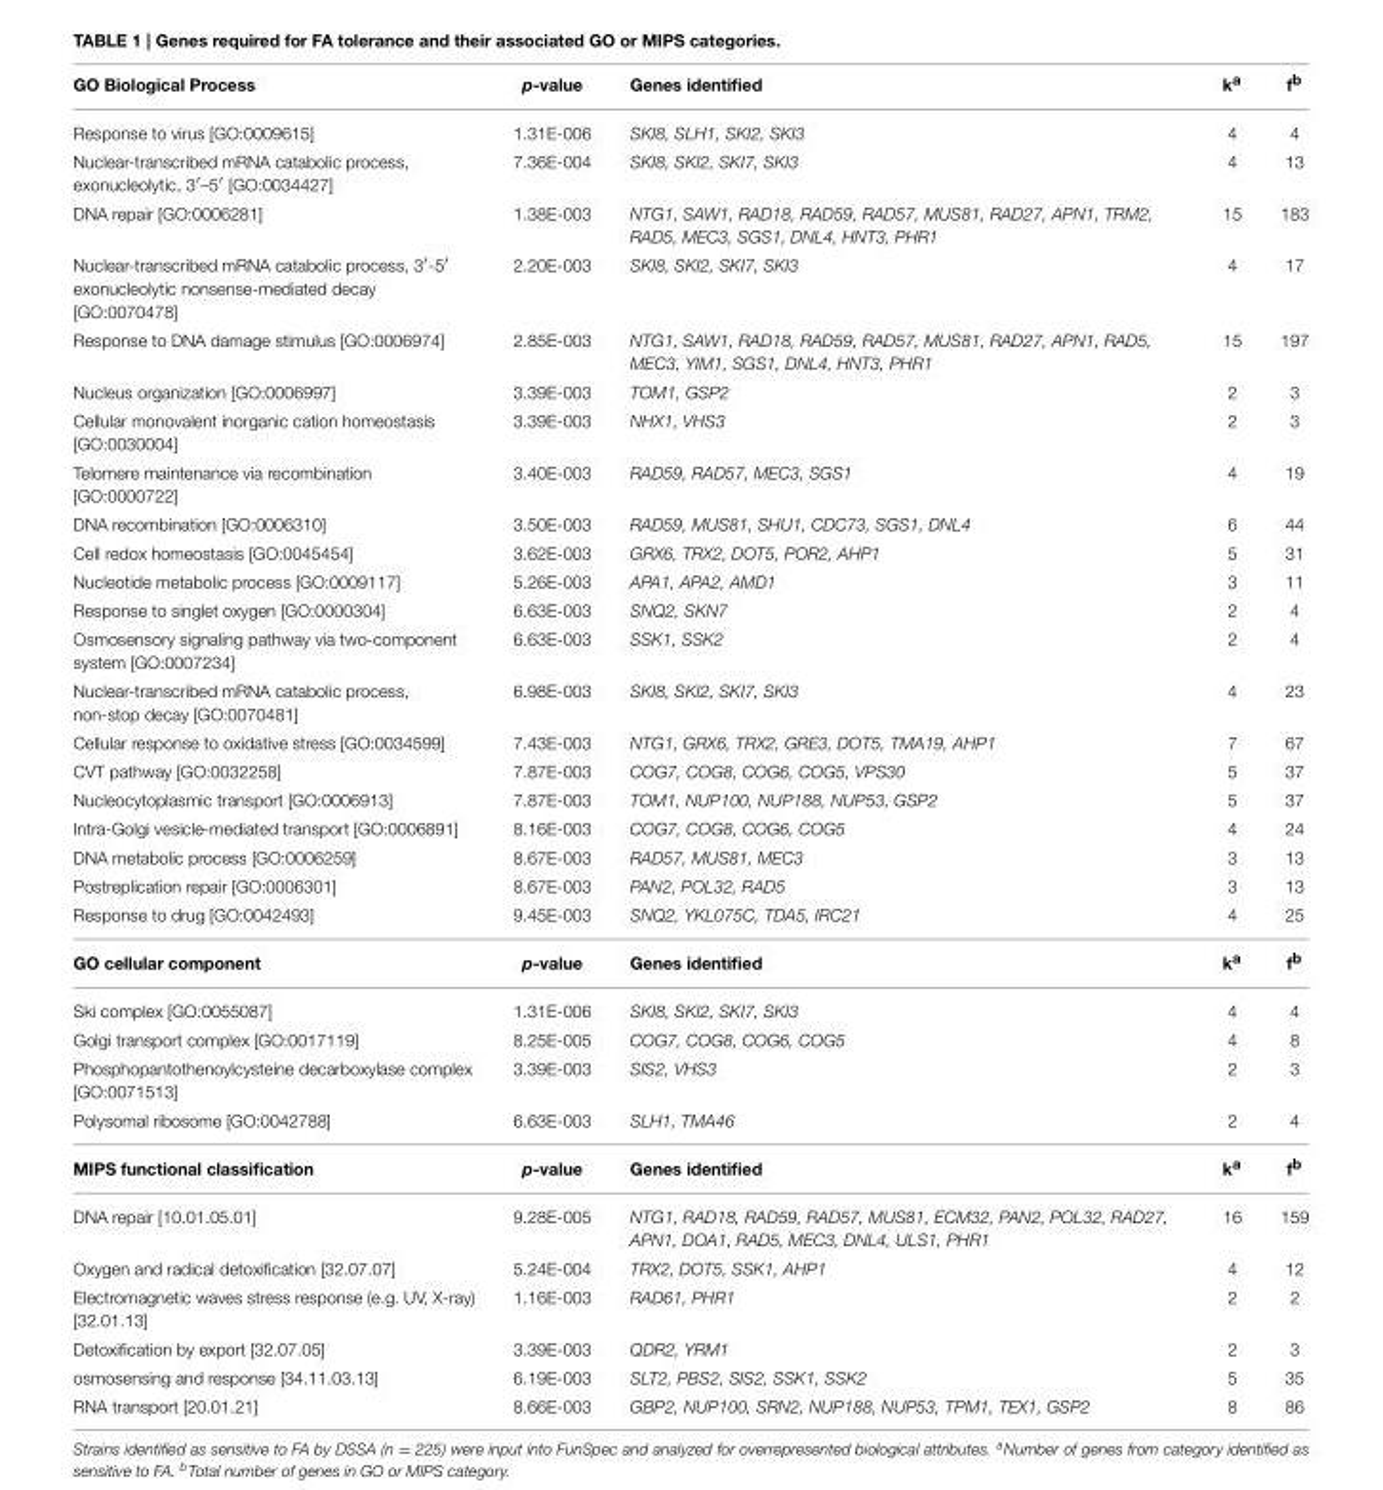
<table><thead><tr><td>GO Biological Process</td><td>p-value</td><td>Genes identified</td><td>k<sup>a</sup></td><td>f<sup>b</sup></td></tr></thead><tbody><tr><td>Response to virus [GO:0009615]</td><td>1.31E-006</td><td>SKI8, SLH1, SKI2, SKI3</td><td>4</td><td>4</td></tr><tr><td>Nuclear-transcribed mRNA catabolic process, exonucleolytic, 3′–5′ [GO:0034427]</td><td>7.36E-004</td><td>SKI8, SKI2, SKI7, SKI3</td><td>4</td><td>13</td></tr><tr><td>DNA repair [GO:0006281]</td><td>1.38E-003</td><td>NTG1, SAW1, RAD18, RAD59, RAD57, MUS81, RAD27, APN1, TRM2, RAD5, MEC3, SGS1, DNL4, HNT3, PHR1</td><td>15</td><td>183</td></tr><tr><td>Nuclear-transcribed mRNA catabolic process, 3′-5′ exonucleolytic nonsense-mediated decay [GO:0070478]</td><td>2.20E-003</td><td>SKI8, SKI2, SKI7, SKI3</td><td>4</td><td>17</td></tr><tr><td>Response to DNA damage stimulus [GO:0006974]</td><td>2.85E-003</td><td>NTG1, SAW1, RAD18, RAD59, RAD57, MUS81, RAD27, APN1, RAD5, MEC3, YIM1, SGS1, DNL4, HNT3, PHR1</td><td>15</td><td>197</td></tr><tr><td>Nucleus organization [GO:0006997]</td><td>3.39E-003</td><td>TOM1, GSP2</td><td>2</td><td>3</td></tr><tr><td>Cellular monovalent inorganic cation homeostasis [GO:0030004]</td><td>3.39E-003</td><td>NHX1, VHS3</td><td>2</td><td>3</td></tr><tr><td>Telomere maintenance via recombination [GO:0000722]</td><td>3.40E-003</td><td>RAD59, RAD57, MEC3, SGS1</td><td>4</td><td>19</td></tr><tr><td>DNA recombination [GO:0006310]</td><td>3.50E-003</td><td>RAD59, MUS81, SHU1, CDC73, SGS1, DNL4</td><td>6</td><td>44</td></tr><tr><td>Cell redox homeostasis [GO:0045454]</td><td>3.62E-003</td><td>GRX6, TRX2, DOT5, POR2, AHP1</td><td>5</td><td>31</td></tr><tr><td>Nucleotide metabolic process [GO:0009117]</td><td>5.26E-003</td><td>APA1, APA2, AMD1</td><td>3</td><td>11</td></tr><tr><td>Response to singlet oxygen [GO:0000304]</td><td>6.63E-003</td><td>SNQ2, SKN7</td><td>2</td><td>4</td></tr><tr><td>Osmosensory signaling pathway via two-component system [GO:0007234]</td><td>6.63E-003</td><td>SSK1, SSK2</td><td>2</td><td>4</td></tr><tr><td>Nuclear-transcribed mRNA catabolic process, non-stop decay [GO:0070481]</td><td>6.98E-003</td><td>SKI8, SKI2, SKI7, SKI3</td><td>4</td><td>23</td></tr><tr><td>Cellular response to oxidative stress [GO:0034599]</td><td>7.43E-003</td><td>NTG1, GRX6, TRX2, GRE3, DOT5, TMA19, AHP1</td><td>7</td><td>67</td></tr><tr><td>CVT pathway [GO:0032258]</td><td>7.87E-003</td><td>COG7, COG8, COG6, COG5, VPS30</td><td>5</td><td>37</td></tr><tr><td>Nucleocytoplasmic transport [GO:0006913]</td><td>7.87E-003</td><td>TOM1, NUP100, NUP188, NUP53, GSP2</td><td>5</td><td>37</td></tr><tr><td>Intra-Golgi vesicle-mediated transport [GO:0006891]</td><td>8.16E-003</td><td>COG7, COG8, COG6, COG5</td><td>4</td><td>24</td></tr><tr><td>DNA metabolic process [GO:0006259]</td><td>8.67E-003</td><td>RAD57, MUS81, MEC3</td><td>3</td><td>13</td></tr><tr><td>Postreplication repair [GO:0006301]</td><td>8.67E-003</td><td>PAN2, POL32, RAD5</td><td>3</td><td>13</td></tr><tr><td>Response to drug [GO:0042493]</td><td>9.45E-003</td><td>SNQ2, YKL075C, TDA5, IRC21</td><td>4</td><td>25</td></tr><tr><td>GO cellular component</td><td>p-value</td><td>Genes identified</td><td>k<sup>a</sup></td><td>f<sup>b</sup></td></tr><tr><td>Ski complex [GO:0055087]</td><td>1.31E-006</td><td>SKI8, SKI2, SKI7, SKI3</td><td>4</td><td>4</td></tr><tr><td>Golgi transport complex [GO:0017119]</td><td>8.25E-005</td><td>COG7, COG8, COG6, COG5</td><td>4</td><td>8</td></tr><tr><td>Phosphopantothenoylcysteine decarboxylase complex [GO:0071513]</td><td>3.39E-003</td><td>SIS2, VHS3</td><td>2</td><td>3</td></tr><tr><td>Polysomal ribosome [GO:0042788]</td><td>6.63E-003</td><td>SLH1, TMA46</td><td>2</td><td>4</td></tr><tr><td>MIPS functional classification</td><td>p-value</td><td>Genes identified</td><td>k<sup>a</sup></td><td>f<sup>b</sup></td></tr><tr><td>DNA repair [10.01.05.01]</td><td>9.28E-005</td><td>NTG1, RAD18, RAD59, RAD57, MUS81, ECM32, PAN2, POL32, RAD27, APN1, DOA1, RAD5, MEC3, DNL4, ULS1, PHR1</td><td>16</td><td>159</td></tr><tr><td>Oxygen and radical detoxification [32.07.07]</td><td>5.24E-004</td><td>TRX2, DOT5, SSK1, AHP1</td><td>4</td><td>12</td></tr><tr><td>Electromagnetic waves stress response (e.g. UV, X-ray) [32.01.13]</td><td>1.16E-003</td><td>RAD61, PHR1</td><td>2</td><td>2</td></tr><tr><td>Detoxification by export [32.07.05]</td><td>3.39E-003</td><td>QDR2, YRM1</td><td>2</td><td>3</td></tr><tr><td>osmosensing and response [34.11.03.13]</td><td>6.19E-003</td><td>SLT2, PBS2, SIS2, SSK1, SSK2</td><td>5</td><td>35</td></tr><tr><td>RNA transport [20.01.21]</td><td>8.66E-003</td><td>GBP2, NUP100, SRN2, NUP188, NUP53, TPM1, TEX1, GSP2</td><td>8</td><td>86</td></tr></tbody></table>